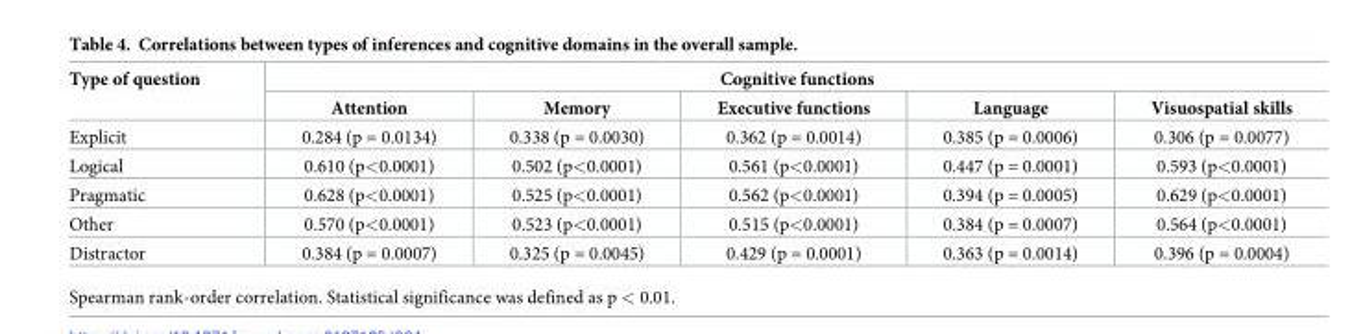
<table><thead><tr><td rowspan="2">Type of question</td><td colspan="5">Cognitive functions</td></tr><tr><td>Attention</td><td>Memory</td><td>Executive functions</td><td>Language</td><td>Visuospatial skills</td></tr></thead><tbody><tr><td>Explicit</td><td>0.284 (p = 0.0134)</td><td>0.338 (p = 0.0030)</td><td>0.362 (p = 0.0014)</td><td>0.385 (p = 0.0006)</td><td>0.306 (p = 0.0077)</td></tr><tr><td>Logical</td><td>0.610 (p&lt;0.0001)</td><td>0.502 (p&lt;0.0001)</td><td>0.561 (p&lt;0.0001)</td><td>0.447 (p = 0.0001)</td><td>0.593 (p&lt;0.0001)</td></tr><tr><td>Pragmatic</td><td>0.628 (p&lt;0.0001)</td><td>0.525 (p&lt;0.0001)</td><td>0.562 (p&lt;0.0001)</td><td>0.394 (p = 0.0005)</td><td>0.629 (p&lt;0.0001)</td></tr><tr><td>Other</td><td>0.570 (p&lt;0.0001)</td><td>0.523 (p&lt;0.0001)</td><td>0.515 (p&lt;0.0001)</td><td>0.384 (p = 0.0007)</td><td>0.564 (p&lt;0.0001)</td></tr><tr><td>Distractor</td><td>0.384 (p = 0.0007)</td><td>0.325 (p = 0.0045)</td><td>0.429 (p = 0.0001)</td><td>0.363 (p = 0.0014)</td><td>0.396 (p = 0.0004)</td></tr></tbody></table>